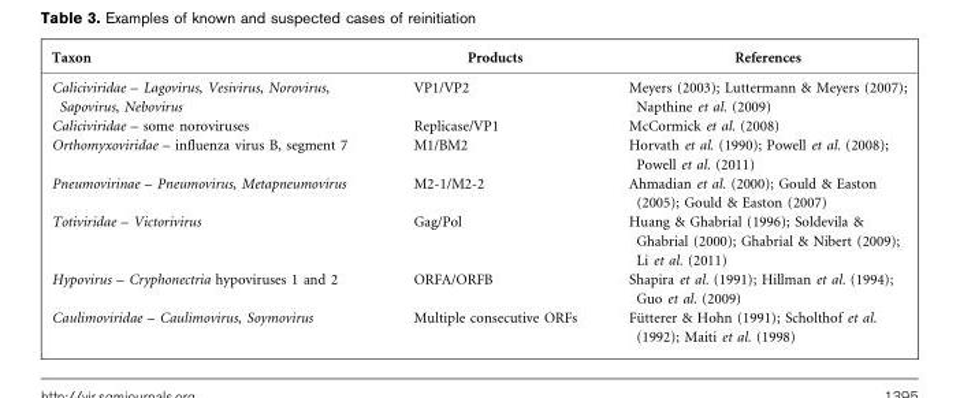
<table><thead><tr><td>Taxon</td><td>Products</td><td>References</td></tr></thead><tbody><tr><td>Caliciviridae – Lagovirus, Vesivirus, Norovirus, Sapovirus, Nebovirus</td><td>VP1/VP2</td><td>Meyers (2003); Luttermann &amp; Meyers (2007); Napthine et al. (2009)</td></tr><tr><td>Caliciviridae – some noroviruses</td><td>Replicase/VP1</td><td>McCormick et al. (2008)</td></tr><tr><td>Orthomyxoviridae – influenza virus B, segment 7</td><td>M1/BM2</td><td>Horvath et al. (1990); Powell et al. (2008); Powell et al. (2011)</td></tr><tr><td>Pneumovirinae – Pneumovirus, Metapneumovirus</td><td>M2-1/M2-2</td><td>Ahmadian et al. (2000); Gould &amp; Easton (2005); Gould &amp; Easton (2007)</td></tr><tr><td>Totiviridae – Victorivirus</td><td>Gag/Pol</td><td>Huang &amp; Ghabrial (1996); Soldevila &amp; Ghabrial (2000); Ghabrial &amp; Nibert (2009); Li et al. (2011)</td></tr><tr><td>Hypovirus – Cryphonectria hypoviruses 1 and 2</td><td>ORFA/ORFB</td><td>Shapira et al. (1991); Hillman et al. (1994); Guo et al. (2009)</td></tr><tr><td>Caulimoviridae – Caulimovirus, Soymovirus</td><td>Multiple consecutive ORFs</td><td>Fu¨tterer &amp; Hohn (1991); Scholthof et al. (1992); Maiti et al. (1998)</td></tr></tbody></table>